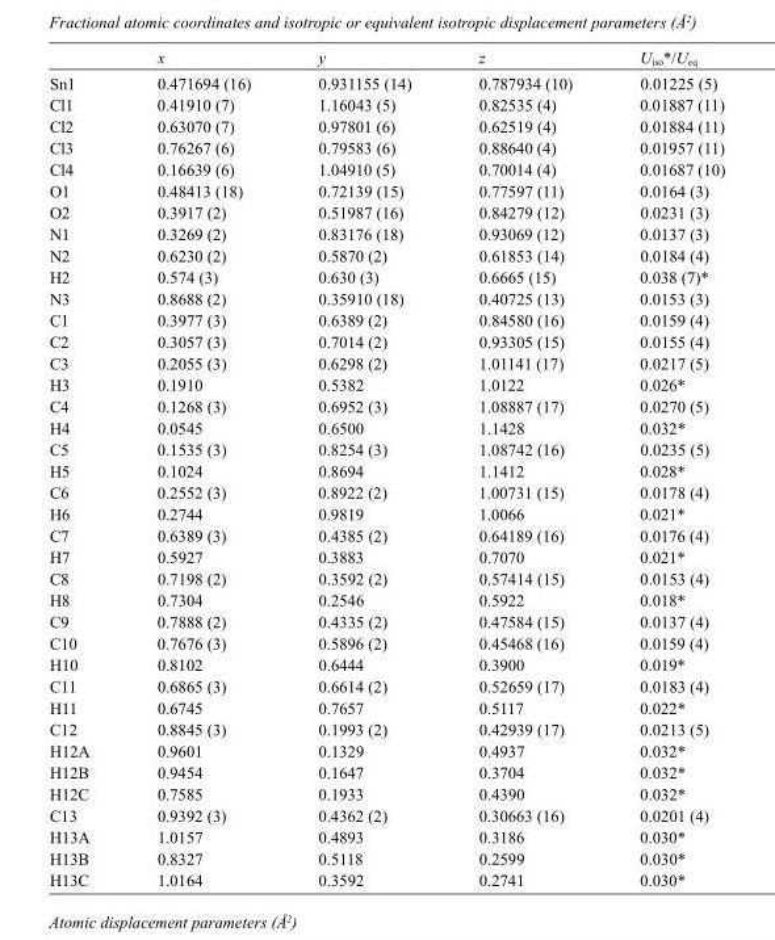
<table><thead><tr><td></td><td>x</td><td>y</td><td>z</td><td>U<sub>iso</sub>*/U<sub>eq</sub></td></tr></thead><tbody><tr><td>Sn1</td><td>0.471694 (16)</td><td>0.931155 (14)</td><td>0.787934 (10)</td><td>0.01225 (5)</td></tr><tr><td>Cl1</td><td>0.41910 (7)</td><td>1.16043 (5)</td><td>0.82535 (4)</td><td>0.01887 (11)</td></tr><tr><td>Cl2</td><td>0.63070 (7)</td><td>0.97801 (6)</td><td>0.62519 (4)</td><td>0.01884 (11)</td></tr><tr><td>Cl3</td><td>0.76267 (6)</td><td>0.79583 (6)</td><td>0.88640 (4)</td><td>0.01957 (11)</td></tr><tr><td>Cl4</td><td>0.16639 (6)</td><td>1.04910 (5)</td><td>0.70014 (4)</td><td>0.01687 (10)</td></tr><tr><td>O1</td><td>0.48413 (18)</td><td>0.72139 (15)</td><td>0.77597 (11)</td><td>0.0164 (3)</td></tr><tr><td>O2</td><td>0.3917 (2)</td><td>0.51987 (16)</td><td>0.84279 (12)</td><td>0.0231 (3)</td></tr><tr><td>N1</td><td>0.3269 (2)</td><td>0.83176 (18)</td><td>0.93069 (12)</td><td>0.0137 (3)</td></tr><tr><td>N2</td><td>0.6230 (2)</td><td>0.5870 (2)</td><td>0.61853 (14)</td><td>0.0184 (4)</td></tr><tr><td>H2</td><td>0.574 (3)</td><td>0.630 (3)</td><td>0.6665 (15)</td><td>0.038 (7)*</td></tr><tr><td>N3</td><td>0.8688 (2)</td><td>0.35910 (18)</td><td>0.40725 (13)</td><td>0.0153 (3)</td></tr><tr><td>C1</td><td>0.3977 (3)</td><td>0.6389 (2)</td><td>0.84580 (16)</td><td>0.0159 (4)</td></tr><tr><td>C2</td><td>0.3057 (3)</td><td>0.7014 (2)</td><td>0.93305 (15)</td><td>0.0155 (4)</td></tr><tr><td>C3</td><td>0.2055 (3)</td><td>0.6298 (2)</td><td>1.01141 (17)</td><td>0.0217 (5)</td></tr><tr><td>H3</td><td>0.1910</td><td>0.5382</td><td>1.0122</td><td>0.026*</td></tr><tr><td>C4</td><td>0.1268 (3)</td><td>0.6952 (3)</td><td>1.08887 (17)</td><td>0.0270 (5)</td></tr><tr><td>H4</td><td>0.0545</td><td>0.6500</td><td>1.1428</td><td>0.032*</td></tr><tr><td>C5</td><td>0.1535 (3)</td><td>0.8254 (3)</td><td>1.08742 (16)</td><td>0.0235 (5)</td></tr><tr><td>H5</td><td>0.1024</td><td>0.8694</td><td>1.1412</td><td>0.028*</td></tr><tr><td>C6</td><td>0.2552 (3)</td><td>0.8922 (2)</td><td>1.00731 (15)</td><td>0.0178 (4)</td></tr><tr><td>H6</td><td>0.2744</td><td>0.9819</td><td>1.0066</td><td>0.021*</td></tr><tr><td>C7</td><td>0.6389 (3)</td><td>0.4385 (2)</td><td>0.64189 (16)</td><td>0.0176 (4)</td></tr><tr><td>H7</td><td>0.5927</td><td>0.3883</td><td>0.7070</td><td>0.021*</td></tr><tr><td>C8</td><td>0.7198 (2)</td><td>0.3592 (2)</td><td>0.57414 (15)</td><td>0.0153 (4)</td></tr><tr><td>H8</td><td>0.7304</td><td>0.2546</td><td>0.5922</td><td>0.018*</td></tr><tr><td>C9</td><td>0.7888 (2)</td><td>0.4335 (2)</td><td>0.47584 (15)</td><td>0.0137 (4)</td></tr><tr><td>C10</td><td>0.7676 (3)</td><td>0.5896 (2)</td><td>0.45468 (16)</td><td>0.0159 (4)</td></tr><tr><td>H10</td><td>0.8102</td><td>0.6444</td><td>0.3900</td><td>0.019*</td></tr><tr><td>C11</td><td>0.6865 (3)</td><td>0.6614 (2)</td><td>0.52659 (17)</td><td>0.0183 (4)</td></tr><tr><td>H11</td><td>0.6745</td><td>0.7657</td><td>0.5117</td><td>0.022*</td></tr><tr><td>C12</td><td>0.8845 (3)</td><td>0.1993 (2)</td><td>0.42939 (17)</td><td>0.0213 (5)</td></tr><tr><td>H12A</td><td>0.9601</td><td>0.1329</td><td>0.4937</td><td>0.032*</td></tr><tr><td>H12B</td><td>0.9454</td><td>0.1647</td><td>0.3704</td><td>0.032*</td></tr><tr><td>H12C</td><td>0.7585</td><td>0.1933</td><td>0.4390</td><td>0.032*</td></tr><tr><td>C13</td><td>0.9392 (3)</td><td>0.4362 (2)</td><td>0.30663 (16)</td><td>0.0201 (4)</td></tr><tr><td>H13A</td><td>1.0157</td><td>0.4893</td><td>0.3186</td><td>0.030*</td></tr><tr><td>H13B</td><td>0.8327</td><td>0.5118</td><td>0.2599</td><td>0.030*</td></tr><tr><td>H13C</td><td>1.0164</td><td>0.3592</td><td>0.2741</td><td>0.030*</td></tr></tbody></table>